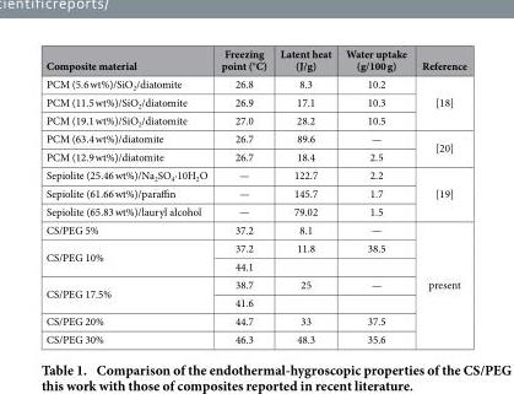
<table><thead><tr><td>Composite material</td><td>Freezing point (°C)</td><td>Latent heat (J/g)</td><td>Water uptake (g/100 g)</td><td>Reference</td></tr></thead><tbody><tr><td>PCM (5.6 wt%)/SiO<sub>2</sub>/diatomite</td><td>26.8</td><td>8.3</td><td>10.2</td><td rowspan="3">[18]</td></tr><tr><td>PCM (11.5 wt%)/SiO<sub>2</sub>/diatomite</td><td>26.9</td><td>17.1</td><td>10.3</td></tr><tr><td>PCM (19.1 wt%)/SiO<sub>2</sub>/diatomite</td><td>27.0</td><td>28.2</td><td>10.5</td></tr><tr><td>PCM (63.4 wt%)/diatomite</td><td>26.7</td><td>89.6</td><td>—</td><td rowspan="2">[20]</td></tr><tr><td>PCM (12.9 wt%)/diatomite</td><td>26.7</td><td>18.4</td><td>2.5</td></tr><tr><td>Sepiolite (25.46 wt%)/Na<sub>2</sub>SO<sub>4</sub>·10H<sub>2</sub>O</td><td>—</td><td>122.7</td><td>2.2</td><td rowspan="3">[19]</td></tr><tr><td>Sepiolite (61.66 wt%)/paraffin</td><td>—</td><td>145.7</td><td>1.7</td></tr><tr><td>Sepiolite (65.83 wt%)/lauryl alcohol</td><td>—</td><td>79.02</td><td>1.5</td></tr><tr><td>CS/PEG 5%</td><td>37.2</td><td>8.1</td><td>—</td><td rowspan="7">present</td></tr><tr><td rowspan="2">CS/PEG 10%</td><td>37.2</td><td>11.8</td><td>38.5</td></tr><tr><td>44.1</td><td></td><td></td></tr><tr><td rowspan="2">CS/PEG 17.5%</td><td>38.7</td><td>25</td><td>—</td></tr><tr><td>41.6</td><td></td><td></td></tr><tr><td>CS/PEG 20%</td><td>44.7</td><td>33</td><td>37.5</td></tr><tr><td>CS/PEG 30%</td><td>46.3</td><td>48.3</td><td>35.6</td></tr></tbody></table>